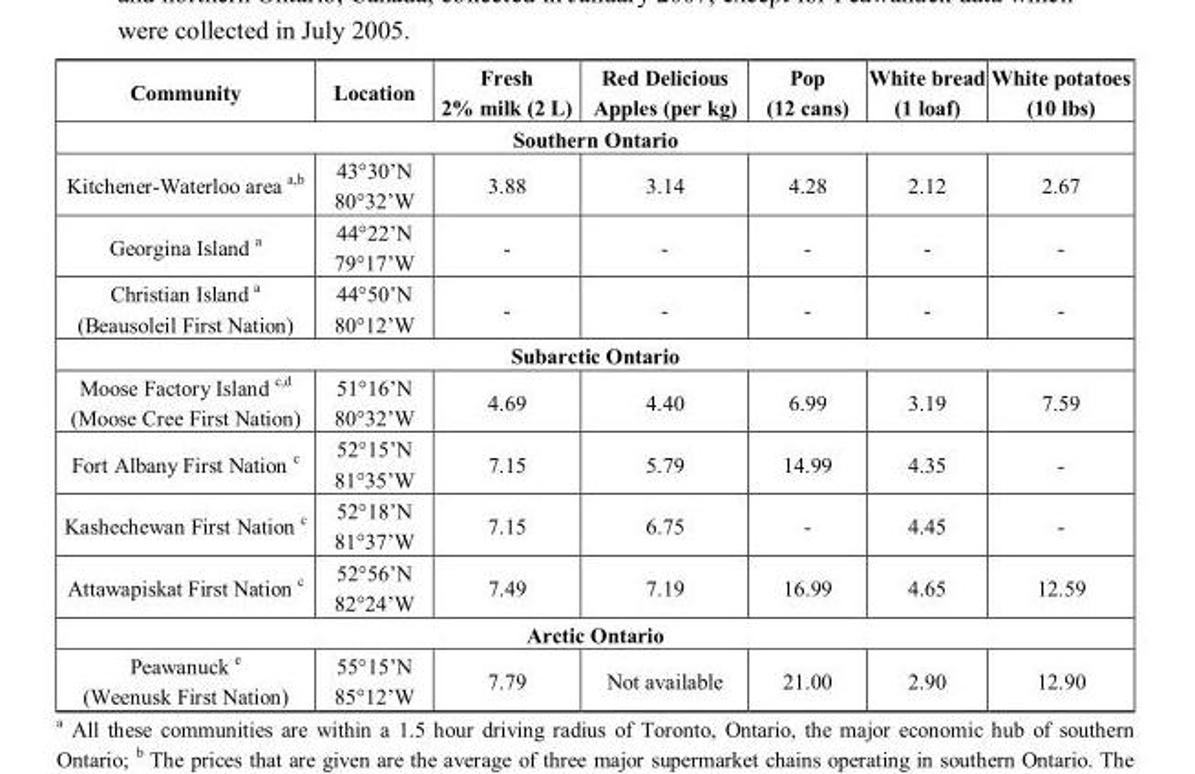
<table><thead><tr><td>Community</td><td>Location</td><td>Fresh 2% milk (2 L)</td><td>Red Delicious Apples (per kg)</td><td>Pop (12 cans)</td><td>White bread (1 loaf)</td><td>White potatoes (10 lbs)</td></tr></thead><tbody><tr><td colspan="7">Southern Ontario</td></tr><tr><td>Kitchener-Waterloo area <sup>a,b</sup></td><td>43°30’N 80°32’W</td><td>3.88</td><td>3.14</td><td>4.28</td><td>2.12</td><td>2.67</td></tr><tr><td>Georgina Island <sup>a</sup></td><td>44°22’N 79°17’W</td><td>-</td><td>-</td><td>-</td><td>-</td><td>-</td></tr><tr><td>Christian Island <sup>a</sup> (Beausoleil First Nation)</td><td>44°50’N 80°12’W</td><td>-</td><td>-</td><td>-</td><td>-</td><td>-</td></tr><tr><td colspan="7">Subarctic Ontario</td></tr><tr><td>Moose Factory Island <sup>c,d</sup> (Moose Cree First Nation)</td><td>51°16’N 80°32’W</td><td>4.69</td><td>4.40</td><td>6.99</td><td>3.19</td><td>7.59</td></tr><tr><td>Fort Albany First Nation <sup>c</sup></td><td>52°15’N 81°35’W</td><td>7.15</td><td>5.79</td><td>14.99</td><td>4.35</td><td>-</td></tr><tr><td>Kashechewan First Nation <sup>c</sup></td><td>52°18’N 81°37’W</td><td>7.15</td><td>6.75</td><td>-</td><td>4.45</td><td>-</td></tr><tr><td>Attawapiskat First Nation <sup>c</sup></td><td>52°56’N 82°24’W</td><td>7.49</td><td>7.19</td><td>16.99</td><td>4.65</td><td>12.59</td></tr><tr><td colspan="7">Arctic Ontario</td></tr><tr><td>Peawanuck <sup>e</sup> (Weenusk First Nation)</td><td>55°15’N 85°12’W</td><td>7.79</td><td>Not available</td><td>21.00</td><td>2.90</td><td>12.90</td></tr></tbody></table>